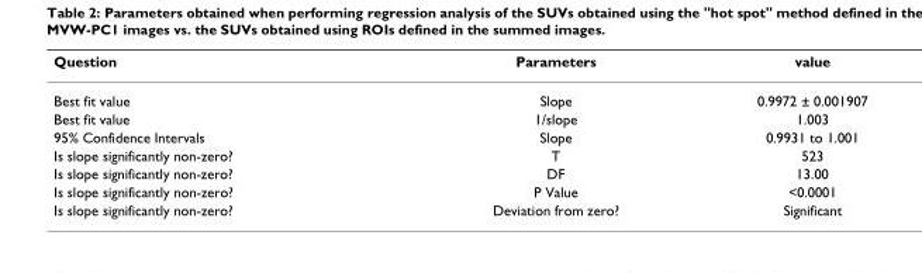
<table><thead><tr><td>Question</td><td>Parameters</td><td>value</td></tr></thead><tbody><tr><td>Best fit value</td><td>Slope</td><td>0.9972 ± 0.001907</td></tr><tr><td>Best fit value</td><td>1/slope</td><td>1.003</td></tr><tr><td>95% Confidence Intervals</td><td>Slope</td><td>0.9931 to 1.001</td></tr><tr><td>Is slope significantly non-zero?</td><td>T</td><td>523</td></tr><tr><td>Is slope significantly non-zero?</td><td>DF</td><td>13.00</td></tr><tr><td>Is slope significantly non-zero?</td><td>P Value</td><td>&lt;0.0001</td></tr><tr><td>Is slope significantly non-zero?</td><td>Deviation from zero?</td><td>Significant</td></tr></tbody></table>